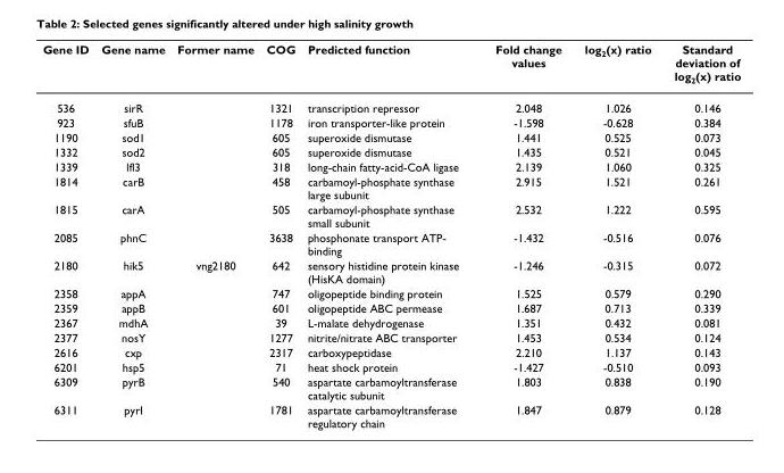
<table><thead><tr><td>Gene ID</td><td>Gene name</td><td>Former name</td><td>COG</td><td>Predicted function</td><td>Fold change values</td><td>log<sub>2</sub>(x) ratio</td><td>Standard deviation of log<sub>2</sub>(x) ratio</td></tr></thead><tbody><tr><td>536</td><td>sirR</td><td></td><td>1321</td><td>transcription repressor</td><td>2.048</td><td>1.026</td><td>0.146</td></tr><tr><td>923</td><td>sfuB</td><td></td><td>1178</td><td>iron transporter-like protein</td><td>-1.598</td><td>-0.628</td><td>0.384</td></tr><tr><td>1190</td><td>sod1</td><td></td><td>605</td><td>superoxide dismutase</td><td>1.441</td><td>0.525</td><td>0.073</td></tr><tr><td>1332</td><td>sod2</td><td></td><td>605</td><td>superoxide dismutase</td><td>1.435</td><td>0.521</td><td>0.045</td></tr><tr><td>1339</td><td>lfl3</td><td></td><td>318</td><td>long-chain fatty-acid-CoA ligase</td><td>2.139</td><td>1.060</td><td>0.325</td></tr><tr><td>1814</td><td>carB</td><td></td><td>458</td><td>carbamoyl-phosphate synthase large subunit</td><td>2.915</td><td>1.521</td><td>0.261</td></tr><tr><td>1815</td><td>carA</td><td></td><td>505</td><td>carbamoyl-phosphate synthase small subunit</td><td>2.532</td><td>1.222</td><td>0.595</td></tr><tr><td>2085</td><td>phnC</td><td></td><td>3638</td><td>phosphonate transport ATP- binding</td><td>-1.432</td><td>-0.516</td><td>0.076</td></tr><tr><td>2180</td><td>hik5</td><td>vng2180</td><td>642</td><td>sensory histidine protein kinase (HisKA domain)</td><td>-1.246</td><td>-0.315</td><td>0.072</td></tr><tr><td>2358</td><td>appA</td><td></td><td>747</td><td>oligopeptide binding protein</td><td>1.525</td><td>0.579</td><td>0.290</td></tr><tr><td>2359</td><td>appB</td><td></td><td>601</td><td>oligopeptide ABC permease</td><td>1.687</td><td>0.713</td><td>0.339</td></tr><tr><td>2367</td><td>mdhA</td><td></td><td>39</td><td>L-malate dehydrogenase</td><td>1.351</td><td>0.432</td><td>0.081</td></tr><tr><td>2377</td><td>nosY</td><td></td><td>1277</td><td>nitrite/nitrate ABC transporter</td><td>1.453</td><td>0.534</td><td>0.124</td></tr><tr><td>2616</td><td>cxp</td><td></td><td>2317</td><td>carboxypeptidase</td><td>2.210</td><td>1.137</td><td>0.143</td></tr><tr><td>6201</td><td>hsp5</td><td></td><td>71</td><td>heat shock protein</td><td>-1.427</td><td>-0.510</td><td>0.093</td></tr><tr><td>6309</td><td>pyrB</td><td></td><td>540</td><td>aspartate carbamoyltransferase catalytic subunit</td><td>1.803</td><td>0.838</td><td>0.190</td></tr><tr><td>6311</td><td>pyrI</td><td></td><td>1781</td><td>aspartate carbamoyltransferase regulatory chain</td><td>1.847</td><td>0.879</td><td>0.128</td></tr></tbody></table>